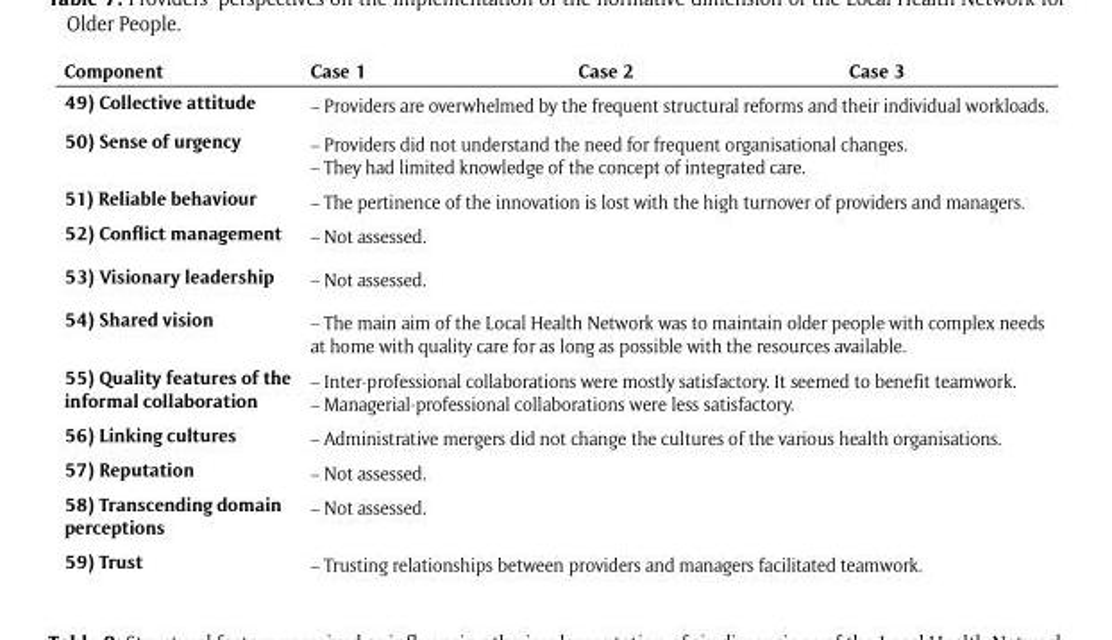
<table><thead><tr><td>Component</td><td>Case 1</td><td>Case 2</td><td>Case 3</td></tr></thead><tbody><tr><td>49) Collective attitude</td><td colspan="3">– Providers are overwhelmed by the frequent structural reforms and their individual workloads.</td></tr><tr><td>50) Sense of urgency</td><td colspan="3">– Providers did not understand the need for frequent organisational changes. – They had limited knowledge of the concept of integrated care.</td></tr><tr><td>51) Reliable behaviour</td><td colspan="3">– The pertinence of the innovation is lost with the high turnover of providers and managers.</td></tr><tr><td>52) Conflict management</td><td colspan="3">– Not assessed.</td></tr><tr><td>53) Visionary leadership</td><td colspan="3">– Not assessed.</td></tr><tr><td>54) Shared vision</td><td colspan="3">– The main aim of the Local Health Network was to maintain older people with complex needs at home with quality care for as long as possible with the resources available.</td></tr><tr><td>55) Quality features of the informal collaboration</td><td colspan="3">– Inter-professional collaborations were mostly satisfactory. It seemed to benefit teamwork. – Managerial-professional collaborations were less satisfactory.</td></tr><tr><td>56) Linking cultures</td><td colspan="3">– Administrative mergers did not change the cultures of the various health organisations.</td></tr><tr><td>57) Reputation</td><td colspan="3">– Not assessed.</td></tr><tr><td>58) Transcending domain perceptions</td><td colspan="3">– Not assessed.</td></tr><tr><td>59) Trust</td><td colspan="3">– Trusting relationships between providers and managers facilitated teamwork.</td></tr></tbody></table>